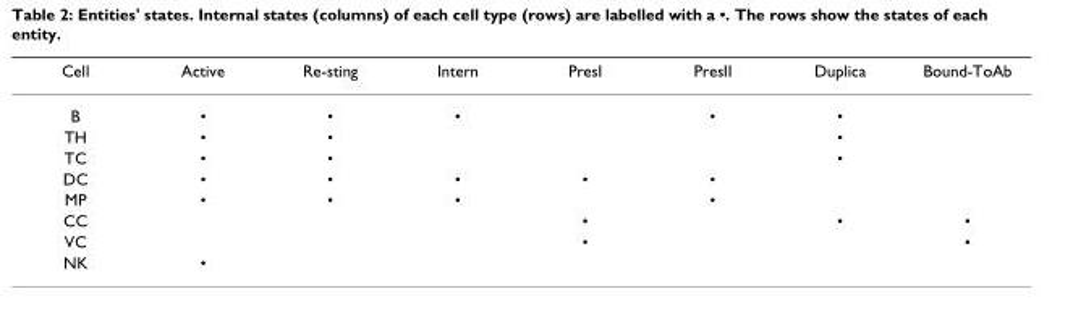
<table><thead><tr><td>Cell</td><td>Active</td><td>Re-sting</td><td>Intern</td><td>PresI</td><td>PresII</td><td>Duplica</td><td>Bound-ToAb</td></tr></thead><tbody><tr><td>B</td><td>•</td><td>•</td><td>•</td><td></td><td>•</td><td>•</td><td></td></tr><tr><td>TH</td><td>•</td><td>•</td><td></td><td></td><td></td><td>•</td><td></td></tr><tr><td>TC</td><td>•</td><td>•</td><td></td><td></td><td></td><td>•</td><td></td></tr><tr><td>DC</td><td>•</td><td>•</td><td>•</td><td>•</td><td>•</td><td></td><td></td></tr><tr><td>MP</td><td>•</td><td>•</td><td>•</td><td></td><td>•</td><td></td><td></td></tr><tr><td>CC</td><td></td><td></td><td></td><td>•</td><td></td><td>•</td><td>•</td></tr><tr><td>VC</td><td></td><td></td><td></td><td>•</td><td></td><td></td><td>•</td></tr><tr><td>NK</td><td>•</td><td></td><td></td><td></td><td></td><td></td><td></td></tr></tbody></table>